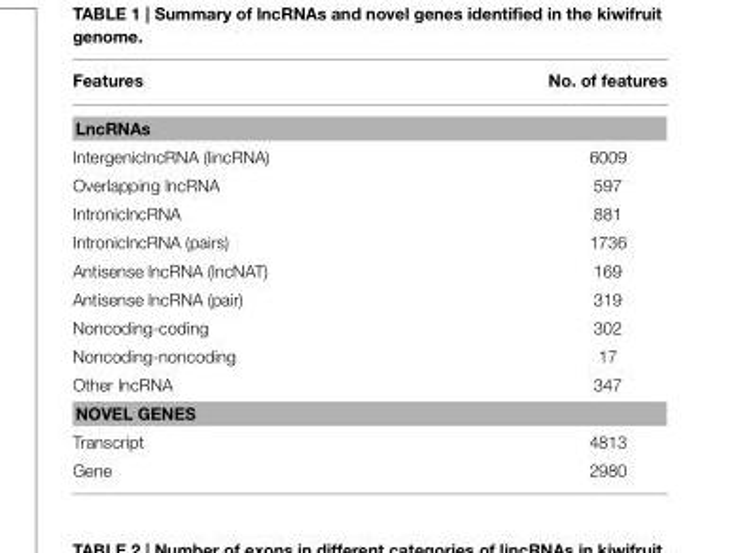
<table><thead><tr><td>Features</td><td>No. of features</td></tr></thead><tbody><tr><td colspan="2">LncRNAs</td></tr><tr><td>IntergeniclncRNA (lincRNA)</td><td>6009</td></tr><tr><td>Overlapping lncRNA</td><td>597</td></tr><tr><td>IntroniclncRNA</td><td>881</td></tr><tr><td>IntroniclncRNA (pairs)</td><td>1736</td></tr><tr><td>Antisense lncRNA (lncNAT)</td><td>169</td></tr><tr><td>Antisense lncRNA (pair)</td><td>319</td></tr><tr><td>Noncoding-coding</td><td>302</td></tr><tr><td>Noncoding-noncoding</td><td>17</td></tr><tr><td>Other lncRNA</td><td>347</td></tr><tr><td colspan="2">NOVEL GENES</td></tr><tr><td>Transcript</td><td>4813</td></tr><tr><td>Gene</td><td>2980</td></tr></tbody></table>